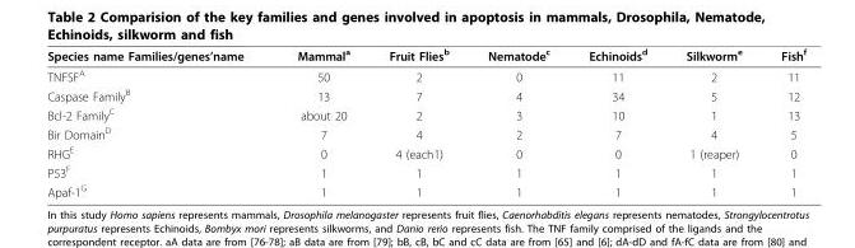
<table><thead><tr><td>Species name Families/genes’name</td><td>Mammal<sup>a</sup></td><td>Fruit Flies<sup>b</sup></td><td>Nematode<sup>c</sup></td><td>Echinoids<sup>d</sup></td><td>Silkworm<sup>e</sup></td><td>Fish<sup>f</sup></td></tr></thead><tbody><tr><td>TNFSF<sup>A</sup></td><td>50</td><td>2</td><td>0</td><td>11</td><td>2</td><td>11</td></tr><tr><td>Caspase Family<sup>B</sup></td><td>13</td><td>7</td><td>4</td><td>34</td><td>5</td><td>12</td></tr><tr><td>Bcl-2 Family<sup>C</sup></td><td>about 20</td><td>2</td><td>3</td><td>10</td><td>1</td><td>13</td></tr><tr><td>Bir Domain<sup>D</sup></td><td>7</td><td>4</td><td>2</td><td>7</td><td>4</td><td>5</td></tr><tr><td>RHG<sup>E</sup></td><td>0</td><td>4 (each1)</td><td>0</td><td>0</td><td>1 (reaper)</td><td>0</td></tr><tr><td>P53<sup>F</sup></td><td>1</td><td>1</td><td>1</td><td>1</td><td>1</td><td>1</td></tr><tr><td>Apaf-1<sup>G</sup></td><td>1</td><td>1</td><td>1</td><td>1</td><td>1</td><td>1</td></tr></tbody></table>